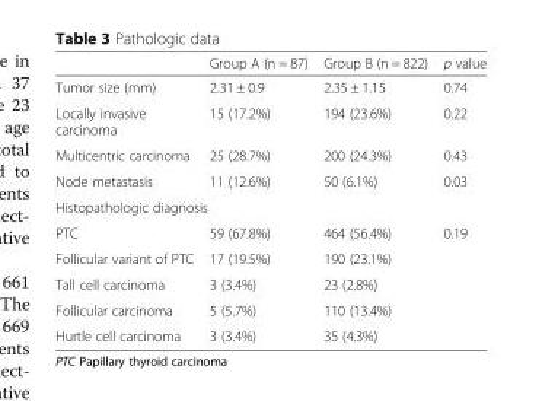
<table><thead><tr><td></td><td>Group A (n = 87)</td><td>Group B (n = 822)</td><td>p value</td></tr></thead><tbody><tr><td>Tumor size (mm)</td><td>2.31 ± 0.9</td><td>2.35 ± 1.15</td><td>0.74</td></tr><tr><td>Locally invasive carcinoma</td><td>15 (17.2%)</td><td>194 (23.6%)</td><td>0.22</td></tr><tr><td>Multicentric carcinoma</td><td>25 (28.7%)</td><td>200 (24.3%)</td><td>0.43</td></tr><tr><td>Node metastasis</td><td>11 (12.6%)</td><td>50 (6.1%)</td><td>0.03</td></tr><tr><td colspan="4">Histopathologic diagnosis</td></tr><tr><td>PTC</td><td>59 (67.8%)</td><td>464 (56.4%)</td><td rowspan="5">0.19</td></tr><tr><td>Follicular variant of PTC</td><td>17 (19.5%)</td><td>190 (23.1%)</td></tr><tr><td>Tall cell carcinoma</td><td>3 (3.4%)</td><td>23 (2.8%)</td></tr><tr><td>Follicular carcinoma</td><td>5 (5.7%)</td><td>110 (13.4%)</td></tr><tr><td>Hurtle cell carcinoma</td><td>3 (3.4%)</td><td>35 (4.3%)</td></tr></tbody></table>